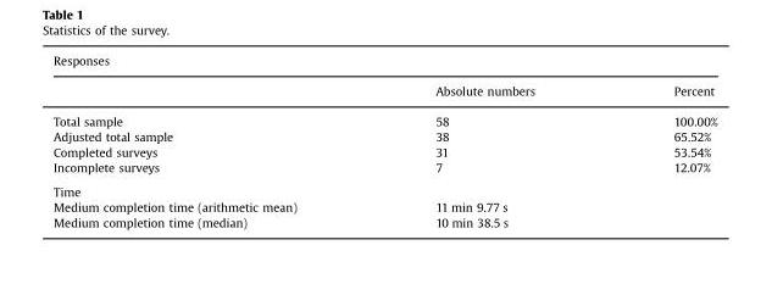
<table><thead><tr><td colspan="3">Responses</td></tr><tr><td></td><td>Absolute numbers</td><td>Percent</td></tr></thead><tbody><tr><td>Total sample</td><td>58</td><td>100.00%</td></tr><tr><td>Adjusted total sample</td><td>38</td><td>65.52%</td></tr><tr><td>Completed surveys</td><td>31</td><td>53.54%</td></tr><tr><td>Incomplete surveys</td><td>7</td><td>12.07%</td></tr><tr><td colspan="3">Time</td></tr><tr><td>Medium completion time (arithmetic mean)</td><td colspan="2">11 min 9.77 s</td></tr><tr><td>Medium completion time (median)</td><td colspan="2">10 min 38.5 s</td></tr></tbody></table>